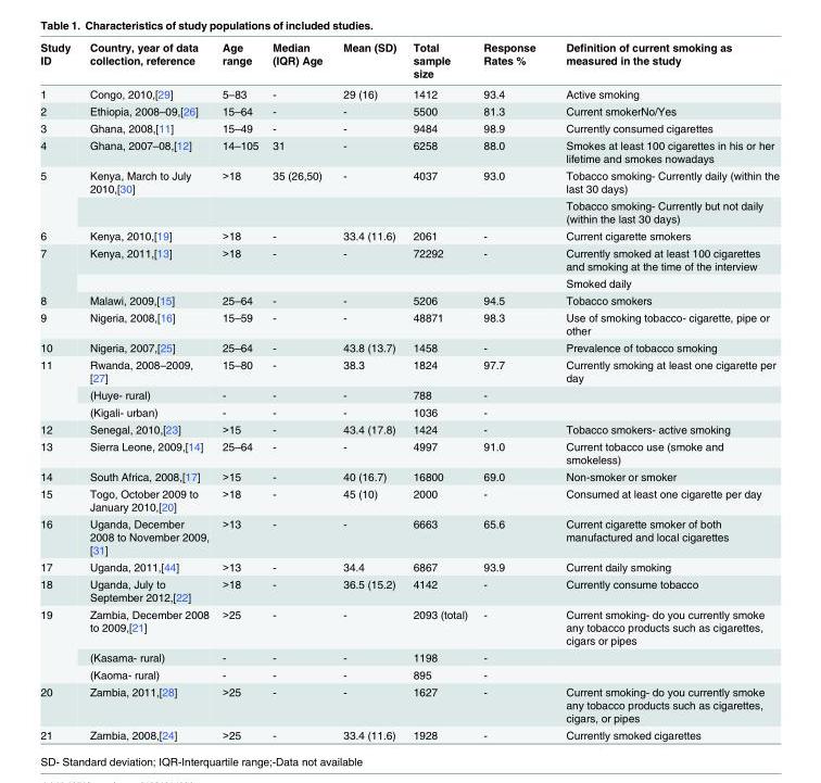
<table><thead><tr><td>Study ID</td><td>Country, year of data collection, reference</td><td>Age range</td><td>Median (IQR) Age</td><td>Mean (SD)</td><td>Total sample size</td><td>Response Rates %</td><td>Definition of current smoking as measured in the study</td></tr></thead><tbody><tr><td>1</td><td>Congo, 2010,[29]</td><td>5–83</td><td>-</td><td>29 (16)</td><td>1412</td><td>93.4</td><td>Active smoking</td></tr><tr><td>2</td><td>Ethiopia, 2008–09,[26]</td><td>15–64</td><td>-</td><td>-</td><td>5500</td><td>81.3</td><td>Current smokerNo/Yes</td></tr><tr><td>3</td><td>Ghana, 2008,[11]</td><td>15–49</td><td>-</td><td>-</td><td>9484</td><td>98.9</td><td>Currently consumed cigarettes</td></tr><tr><td>4</td><td>Ghana, 2007–08,[12]</td><td>14–105</td><td>31</td><td>-</td><td>6258</td><td>88.0</td><td>Smokes at least 100 cigarettes in his or her lifetime and smokes nowadays</td></tr><tr><td rowspan="2">5</td><td>Kenya, March to July 2010,[30]</td><td>&gt;18</td><td>35 (26,50)</td><td>-</td><td>4037</td><td>93.0</td><td>Tobacco smoking- Currently daily (within the last 30 days)</td></tr><tr><td></td><td></td><td></td><td></td><td></td><td></td><td>Tobacco smoking- Currently but not daily (within the last 30 days)</td></tr><tr><td>6</td><td>Kenya, 2010,[19]</td><td>&gt;18</td><td>-</td><td>33.4 (11.6)</td><td>2061</td><td>-</td><td>Current cigarette smokers</td></tr><tr><td rowspan="2">7</td><td>Kenya, 2011,[13]</td><td>&gt;18</td><td>-</td><td>-</td><td>72292</td><td>-</td><td>Currently smoked at least 100 cigarettes and smoking at the time of the interview</td></tr><tr><td></td><td></td><td></td><td></td><td></td><td></td><td>Smoked daily</td></tr><tr><td>8</td><td>Malawi, 2009,[15]</td><td>25–64</td><td>-</td><td>-</td><td>5206</td><td>94.5</td><td>Tobacco smokers</td></tr><tr><td>9</td><td>Nigeria, 2008,[16]</td><td>15–59</td><td>-</td><td>-</td><td>48871</td><td>98.3</td><td>Use of smoking tobacco- cigarette, pipe or other</td></tr><tr><td>10</td><td>Nigeria, 2007,[25]</td><td>25–64</td><td>-</td><td>43.8 (13.7)</td><td>1458</td><td>-</td><td>Prevalence of tobacco smoking</td></tr><tr><td rowspan="3">11</td><td>Rwanda, 2008–2009, [27]</td><td>15–80</td><td>-</td><td>38.3</td><td>1824</td><td>97.7</td><td>Currently smoking at least one cigarette per day</td></tr><tr><td>(Huye- rural)</td><td>-</td><td>-</td><td>-</td><td>788</td><td>-</td><td></td></tr><tr><td>(Kigali- urban)</td><td>-</td><td>-</td><td>-</td><td>1036</td><td>-</td><td></td></tr><tr><td>12</td><td>Senegal, 2010,[23]</td><td>&gt;15</td><td>-</td><td>43.4 (17.8)</td><td>1424</td><td>-</td><td>Tobacco smokers- active smoking</td></tr><tr><td>13</td><td>Sierra Leone, 2009,[14]</td><td>25–64</td><td>-</td><td>-</td><td>4997</td><td>91.0</td><td>Current tobacco use (smoke and smokeless)</td></tr><tr><td>14</td><td>South Africa, 2008,[17]</td><td>&gt;15</td><td>-</td><td>40 (16.7)</td><td>16800</td><td>69.0</td><td>Non-smoker or smoker</td></tr><tr><td>15</td><td>Togo, October 2009 to January 2010,[20]</td><td>&gt;18</td><td>-</td><td>45 (10)</td><td>2000</td><td>-</td><td>Consumed at least one cigarette per day</td></tr><tr><td>16</td><td>Uganda, December 2008 to November 2009, [31]</td><td>&gt;13</td><td>-</td><td>-</td><td>6663</td><td>65.6</td><td>Current cigarette smoker of both manufactured and local cigarettes</td></tr><tr><td>17</td><td>Uganda, 2011,[44]</td><td>&gt;13</td><td>-</td><td>34.4</td><td>6867</td><td>93.9</td><td>Current daily smoking</td></tr><tr><td>18</td><td>Uganda, July to September 2012,[22]</td><td>&gt;18</td><td>-</td><td>36.5 (15.2)</td><td>4142</td><td>-</td><td>Currently consume tobacco</td></tr><tr><td rowspan="3">19</td><td>Zambia, December 2008 to 2009,[21]</td><td>&gt;25</td><td>-</td><td>-</td><td>2093 (total)</td><td>-</td><td>Current smoking- do you currently smoke any tobacco products such as cigarettes, cigars or pipes</td></tr><tr><td>(Kasama- rural)</td><td>-</td><td>-</td><td>-</td><td>1198</td><td>-</td><td></td></tr><tr><td>(Kaoma- rural)</td><td>-</td><td>-</td><td>-</td><td>895</td><td>-</td><td></td></tr><tr><td>20</td><td>Zambia, 2011,[28]</td><td>&gt;25</td><td>-</td><td>-</td><td>1627</td><td>-</td><td>Current smoking- do you currently smoke any tobacco products such as cigarettes, cigars, or pipes</td></tr><tr><td>21</td><td>Zambia, 2008,[24]</td><td>&gt;25</td><td>-</td><td>33.4 (11.6)</td><td>1928</td><td>-</td><td>Currently smoked cigarettes</td></tr></tbody></table>